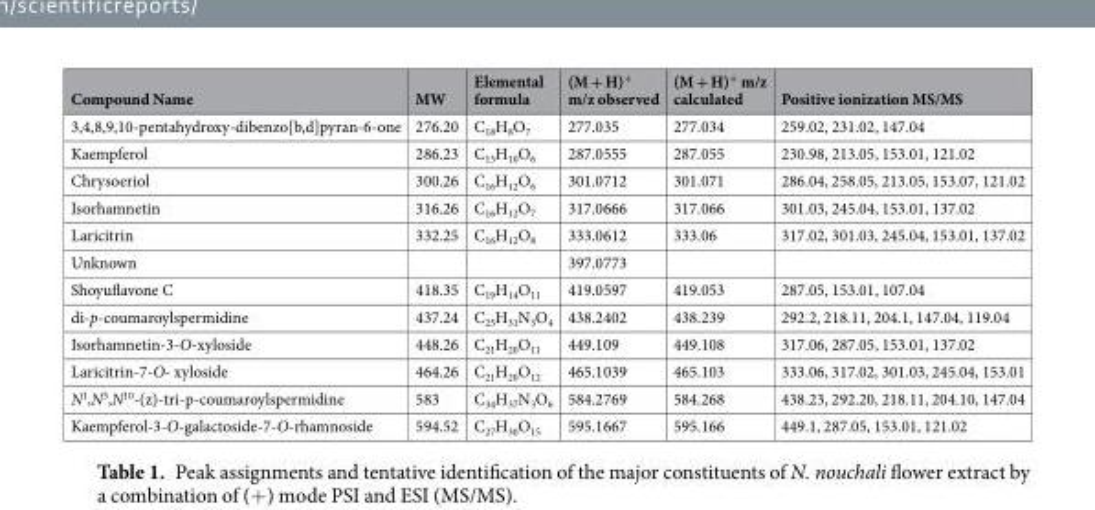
<table><thead><tr><td>Compound Name</td><td>MW</td><td>Elemental formula</td><td>(M + H)<sup>+</sup> m/z observed</td><td>(M + H)<sup>+</sup> m/z calculated</td><td>Positive ionization MS/MS</td></tr></thead><tbody><tr><td>3,4,8,9,10-pentahydroxy-dibenzo[b,d]pyran-6-one</td><td>276.20</td><td>C<sub>18</sub>H<sub>8</sub>O<sub>7</sub></td><td>277.035</td><td>277.034</td><td>259.02, 231.02, 147.04</td></tr><tr><td>Kaempferol</td><td>286.23</td><td>C<sub>15</sub>H<sub>10</sub>O<sub>6</sub></td><td>287.0555</td><td>287.055</td><td>230.98, 213.05, 153.01, 121.02</td></tr><tr><td>Chrysoeriol</td><td>300.26</td><td>C<sub>16</sub>H<sub>12</sub>O<sub>6</sub></td><td>301.0712</td><td>301.071</td><td>286.04, 258.05, 213.05, 153.07, 121.02</td></tr><tr><td>Isorhamnetin</td><td>316.26</td><td>C<sub>16</sub>H<sub>12</sub>O<sub>7</sub></td><td>317.0666</td><td>317.066</td><td>301.03, 245.04, 153.01, 137.02</td></tr><tr><td>Laricitrin</td><td>332.25</td><td>C<sub>16</sub>H<sub>12</sub>O<sub>8</sub></td><td>333.0612</td><td>333.06</td><td>317.02, 301.03, 245.04, 153.01, 137.02</td></tr><tr><td>Unknown</td><td></td><td></td><td>397.0773</td><td></td><td></td></tr><tr><td>Shoyuflavone C</td><td>418.35</td><td>C<sub>19</sub>H<sub>14</sub>O<sub>11</sub></td><td>419.0597</td><td>419.053</td><td>287.05, 153.01, 107.04</td></tr><tr><td>di-p-coumaroylspermidine</td><td>437.24</td><td>C<sub>25</sub>H<sub>31</sub>N<sub>3</sub>O<sub>4</sub></td><td>438.2402</td><td>438.239</td><td>292.2, 218.11, 204.1, 147.04, 119.04</td></tr><tr><td>Isorhamnetin-3-O-xyloside</td><td>448.26</td><td>C<sub>21</sub>H<sub>20</sub>O<sub>11</sub></td><td>449.109</td><td>449.108</td><td>317.06, 287.05, 153.01, 137.02</td></tr><tr><td>Laricitrin-7-O- xyloside</td><td>464.26</td><td>C<sub>21</sub>H<sub>20</sub>O<sub>12</sub></td><td>465.1039</td><td>465.103</td><td>333.06, 317.02, 301.03, 245.04, 153.01</td></tr><tr><td>N<sup>1</sup>,N<sup>5</sup>,N<sup>10</sup>-(z)-tri-p-coumaroylspermidine</td><td>583</td><td>C<sub>34</sub>H<sub>37</sub>N<sub>3</sub>O<sub>6</sub></td><td>584.2769</td><td>584.268</td><td>438.23, 292.20, 218.11, 204.10, 147.04</td></tr><tr><td>Kaempferol-3-O-galactoside-7-O-rhamnoside</td><td>594.52</td><td>C<sub>27</sub>H<sub>30</sub>O<sub>15</sub></td><td>595.1667</td><td>595.166</td><td>449.1, 287.05, 153.01, 121.02</td></tr></tbody></table>